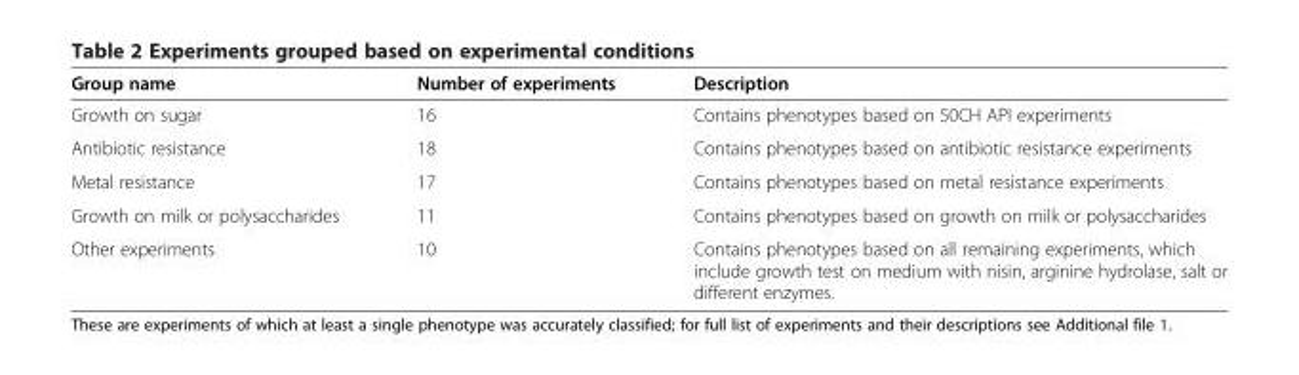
<table><thead><tr><td>Group name</td><td>Number of experiments</td><td>Description</td></tr></thead><tbody><tr><td>Growth on sugar</td><td>16</td><td>Contains phenotypes based on 50CH API experiments</td></tr><tr><td>Antibiotic resistance</td><td>18</td><td>Contains phenotypes based on antibiotic resistance experiments</td></tr><tr><td>Metal resistance</td><td>17</td><td>Contains phenotypes based on metal resistance experiments</td></tr><tr><td>Growth on milk or polysaccharides</td><td>11</td><td>Contains phenotypes based on growth on milk or polysaccharides</td></tr><tr><td>Other experiments</td><td>10</td><td>Contains phenotypes based on all remaining experiments, which include growth test on medium with nisin, arginine hydrolase, salt or different enzymes.</td></tr></tbody></table>